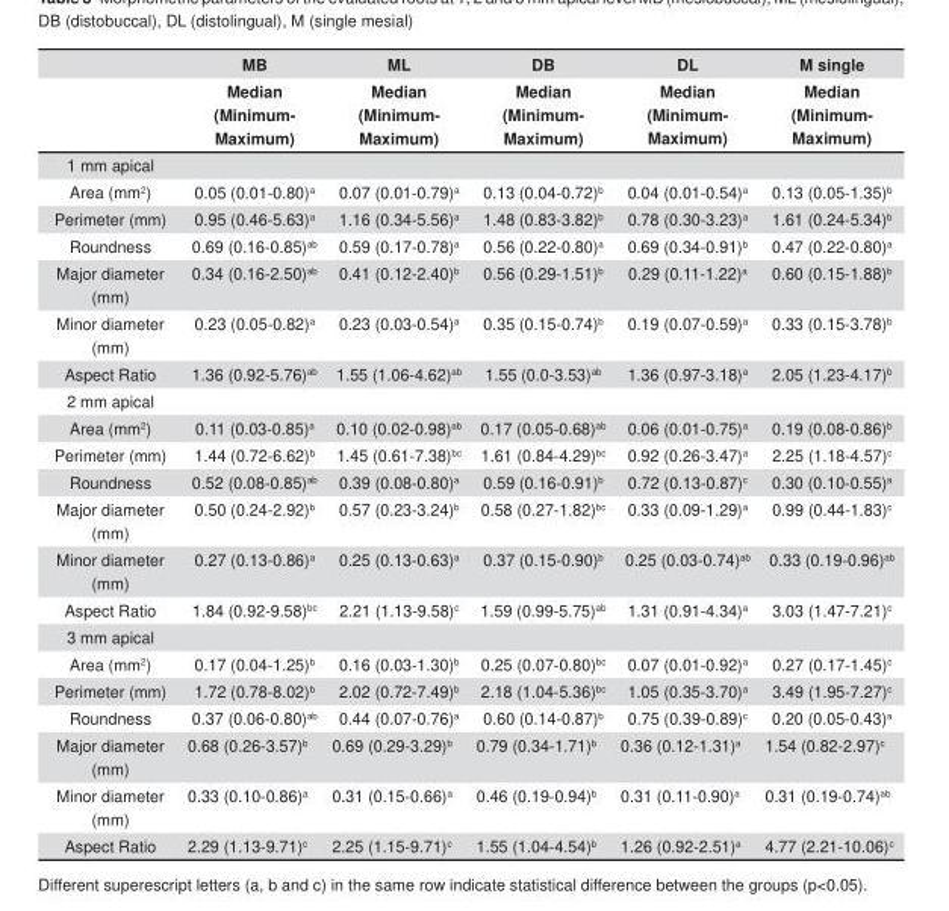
<table><thead><tr><td rowspan="2"></td><td rowspan="2">MB Median (Minimum- Maximum)</td><td rowspan="2">ML Median (Minimum- Maximum)</td><td rowspan="2">DB Median (Minimum- Maximum)</td><td rowspan="2">DL Median (Minimum- Maximum)</td><td rowspan="2">M single Median (Minimum- Maximum)</td></tr><tr></tr></thead><tbody><tr><td colspan="6">1 mm apical</td></tr><tr><td>Area (mm<sup>2</sup>)</td><td>0.05 (0.01-0.80)<sup>a</sup></td><td>0.07 (0.01-0.79)<sup>a</sup></td><td>0.13 (0.04-0.72)<sup>b</sup></td><td>0.04 (0.01-0.54)<sup>a</sup></td><td>0.13 (0.05-1.35)<sup>b</sup></td></tr><tr><td>Perimeter (mm)</td><td>0.95 (0.46-5.63)<sup>a</sup></td><td>1.16 (0.34-5.56)<sup>a</sup></td><td>1.48 (0.83-3.82)<sup>b</sup></td><td>0.78 (0.30-3.23)<sup>a</sup></td><td>1.61 (0.24-5.34)<sup>b</sup></td></tr><tr><td>Roundness</td><td>0.69 (0.16-0.85)<sup>ab</sup></td><td>0.59 (0.17-0.78)<sup>a</sup></td><td>0.56 (0.22-0.80)<sup>a</sup></td><td>0.69 (0.34-0.91)<sup>b</sup></td><td>0.47 (0.22-0.80)<sup>a</sup></td></tr><tr><td>Major diameter (mm)</td><td>0.34 (0.16-2.50)<sup>ab</sup></td><td>0.41 (0.12-2.40)<sup>b</sup></td><td>0.56 (0.29-1.51)<sup>b</sup></td><td>0.29 (0.11-1.22)<sup>a</sup></td><td>0.60 (0.15-1.88)<sup>b</sup></td></tr><tr><td>Minor diameter (mm)</td><td>0.23 (0.05-0.82)<sup>a</sup></td><td>0.23 (0.03-0.54)<sup>a</sup></td><td>0.35 (0.15-0.74)<sup>b</sup></td><td>0.19 (0.07-0.59)<sup>a</sup></td><td>0.33 (0.15-3.78)<sup>b</sup></td></tr><tr><td>Aspect Ratio</td><td>1.36 (0.92-5.76)<sup>ab</sup></td><td>1.55 (1.06-4.62)<sup>ab</sup></td><td>1.55 (0.0-3.53)<sup>ab</sup></td><td>1.36 (0.97-3.18)<sup>a</sup></td><td>2.05 (1.23-4.17)<sup>b</sup></td></tr><tr><td colspan="6">2 mm apical</td></tr><tr><td>Area (mm<sup>2</sup>)</td><td>0.11 (0.03-0.85)<sup>a</sup></td><td>0.10 (0.02-0.98)<sup>ab</sup></td><td>0.17 (0.05-0.68)<sup>ab</sup></td><td>0.06 (0.01-0.75)<sup>a</sup></td><td>0.19 (0.08-0.86)<sup>b</sup></td></tr><tr><td>Perimeter (mm)</td><td>1.44 (0.72-6.62)<sup>b</sup></td><td>1.45 (0.61-7.38)<sup>bc</sup></td><td>1.61 (0.84-4.29)<sup>bc</sup></td><td>0.92 (0.26-3.47)<sup>a</sup></td><td>2.25 (1.18-4.57)<sup>c</sup></td></tr><tr><td>Roundness</td><td>0.52 (0.08-0.85)<sup>ab</sup></td><td>0.39 (0.08-0.80)<sup>a</sup></td><td>0.59 (0.16-0.91)<sup>b</sup></td><td>0.72 (0.13-0.87)<sup>c</sup></td><td>0.30 (0.10-0.55)<sup>a</sup></td></tr><tr><td>Major diameter (mm)</td><td>0.50 (0.24-2.92)<sup>b</sup></td><td>0.57 (0.23-3.24)<sup>b</sup></td><td>0.58 (0.27-1.82)<sup>bc</sup></td><td>0.33 (0.09-1.29)<sup>a</sup></td><td>0.99 (0.44-1.83)<sup>c</sup></td></tr><tr><td>Minor diameter (mm)</td><td>0.27 (0.13-0.86)<sup>a</sup></td><td>0.25 (0.13-0.63)<sup>a</sup></td><td>0.37 (0.15-0.90)<sup>b</sup></td><td>0.25 (0.03-0.74)<sup>ab</sup></td><td>0.33 (0.19-0.96)<sup>ab</sup></td></tr><tr><td>Aspect Ratio</td><td>1.84 (0.92-9.58)<sup>bc</sup></td><td>2.21 (1.13-9.58)<sup>c</sup></td><td>1.59 (0.99-5.75)<sup>ab</sup></td><td>1.31 (0.91-4.34)<sup>a</sup></td><td>3.03 (1.47-7.21)<sup>c</sup></td></tr><tr><td colspan="6">3 mm apical</td></tr><tr><td>Area (mm<sup>2</sup>)</td><td>0.17 (0.04-1.25)<sup>b</sup></td><td>0.16 (0.03-1.30)<sup>b</sup></td><td>0.25 (0.07-0.80)<sup>bc</sup></td><td>0.07 (0.01-0.92)<sup>a</sup></td><td>0.27 (0.17-1.45)<sup>c</sup></td></tr><tr><td>Perimeter (mm)</td><td>1.72 (0.78-8.02)<sup>b</sup></td><td>2.02 (0.72-7.49)<sup>b</sup></td><td>2.18 (1.04-5.36)<sup>bc</sup></td><td>1.05 (0.35-3.70)<sup>a</sup></td><td>3.49 (1.95-7.27)<sup>c</sup></td></tr><tr><td>Roundness</td><td>0.37 (0.06-0.80)<sup>ab</sup></td><td>0.44 (0.07-0.76)<sup>a</sup></td><td>0.60 (0.14-0.87)<sup>b</sup></td><td>0.75 (0.39-0.89)<sup>c</sup></td><td>0.20 (0.05-0.43)<sup>a</sup></td></tr><tr><td>Major diameter (mm)</td><td>0.68 (0.26-3.57)<sup>b</sup></td><td>0.69 (0.29-3.29)<sup>b</sup></td><td>0.79 (0.34-1.71)<sup>b</sup></td><td>0.36 (0.12-1.31)<sup>a</sup></td><td>1.54 (0.82-2.97)<sup>c</sup></td></tr><tr><td>Minor diameter (mm)</td><td>0.33 (0.10-0.86)<sup>a</sup></td><td>0.31 (0.15-0.66)<sup>a</sup></td><td>0.46 (0.19-0.94)<sup>b</sup></td><td>0.31 (0.11-0.90)<sup>a</sup></td><td>0.31 (0.19-0.74)<sup>ab</sup></td></tr><tr><td>Aspect Ratio</td><td>2.29 (1.13-9.71)<sup>c</sup></td><td>2.25 (1.15-9.71)<sup>c</sup></td><td>1.55 (1.04-4.54)<sup>b</sup></td><td>1.26 (0.92-2.51)<sup>a</sup></td><td>4.77 (2.21-10.06)<sup>c</sup></td></tr></tbody></table>